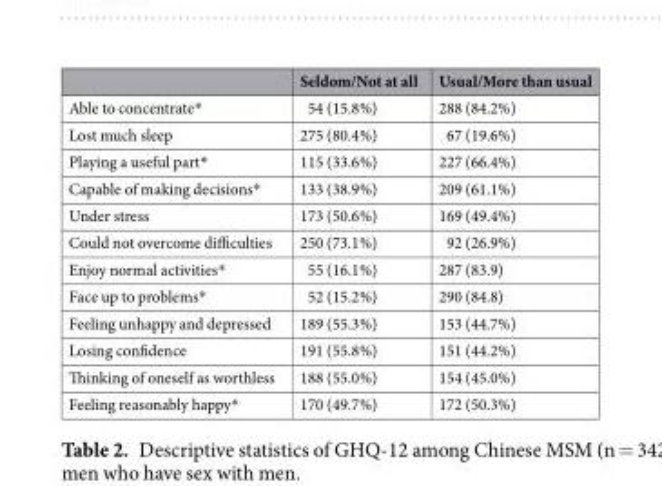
<table><thead><tr><td></td><td>Seldom/Not at all</td><td>Usual/More than usual</td></tr></thead><tbody><tr><td>Able to concentrate*</td><td>54 (15.8%)</td><td>288 (84.2%)</td></tr><tr><td>Lost much sleep</td><td>275 (80.4%)</td><td>67 (19.6%)</td></tr><tr><td>Playing a useful part*</td><td>115 (33.6%)</td><td>227 (66.4%)</td></tr><tr><td>Capable of making decisions*</td><td>133 (38.9%)</td><td>209 (61.1%)</td></tr><tr><td>Under stress</td><td>173 (50.6%)</td><td>169 (49.4%)</td></tr><tr><td>Could not overcome difficulties</td><td>250 (73.1%)</td><td>92 (26.9%)</td></tr><tr><td>Enjoy normal activities*</td><td>55 (16.1%)</td><td>287 (83.9)</td></tr><tr><td>Face up to problems*</td><td>52 (15.2%)</td><td>290 (84.8)</td></tr><tr><td>Feeling unhappy and depressed</td><td>189 (55.3%)</td><td>153 (44.7%)</td></tr><tr><td>Losing confidence</td><td>191 (55.8%)</td><td>151 (44.2%)</td></tr><tr><td>Thinking of oneself as worthless</td><td>188 (55.0%)</td><td>154 (45.0%)</td></tr><tr><td>Feeling reasonably happy*</td><td>170 (49.7%)</td><td>172 (50.3%)</td></tr></tbody></table>